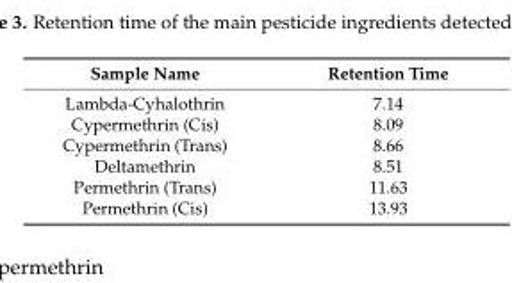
<table><thead><tr><td>Sample Name</td><td>Retention Time</td></tr></thead><tbody><tr><td>Lambda-Cyhalothrin</td><td>7.14</td></tr><tr><td>Cypermethrin (Cis)</td><td>8.09</td></tr><tr><td>Cypermethrin (Trans)</td><td>8.66</td></tr><tr><td>Deltamethrin</td><td>8.51</td></tr><tr><td>Permethrin (Trans)</td><td>11.63</td></tr><tr><td>Permethrin (Cis)</td><td>13.93</td></tr></tbody></table>